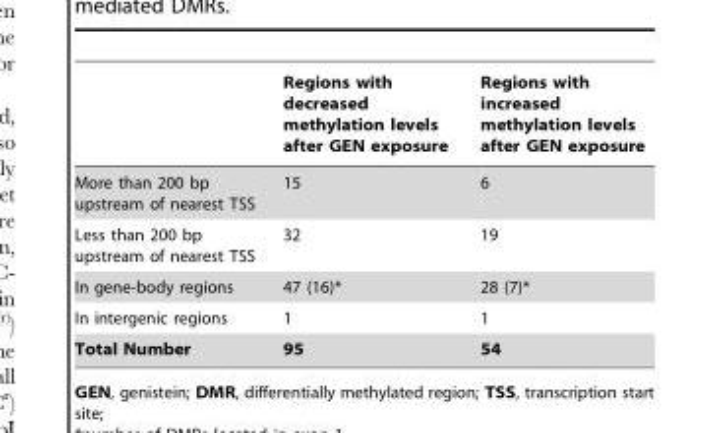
<table><thead><tr><td></td><td>Regions with decreased methylation levels after GEN exposure</td><td>Regions with increased methylation levels after GEN exposure</td></tr></thead><tbody><tr><td>More than 200 bp upstream of nearest TSS</td><td>15</td><td>6</td></tr><tr><td>Less than 200 bp upstream of nearest TSS</td><td>32</td><td>19</td></tr><tr><td>In gene-body regions</td><td>47 (16)*</td><td>28 (7)*</td></tr><tr><td>In intergenic regions</td><td>1</td><td>1</td></tr><tr><td>Total Number</td><td>95</td><td>54</td></tr></tbody></table>